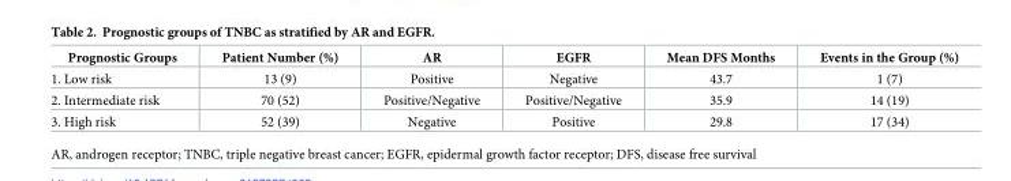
<table><thead><tr><td>Prognostic Groups</td><td>Patient Number (%)</td><td>AR</td><td>EGFR</td><td>Mean DFS Months</td><td>Events in the Group (%)</td></tr></thead><tbody><tr><td>1. Low risk</td><td>13 (9)</td><td>Positive</td><td>Negative</td><td>43.7</td><td>1 (7)</td></tr><tr><td>2. Intermediate risk</td><td>70 (52)</td><td>Positive/Negative</td><td>Positive/Negative</td><td>35.9</td><td>14 (19)</td></tr><tr><td>3. High risk</td><td>52 (39)</td><td>Negative</td><td>Positive</td><td>29.8</td><td>17 (34)</td></tr></tbody></table>